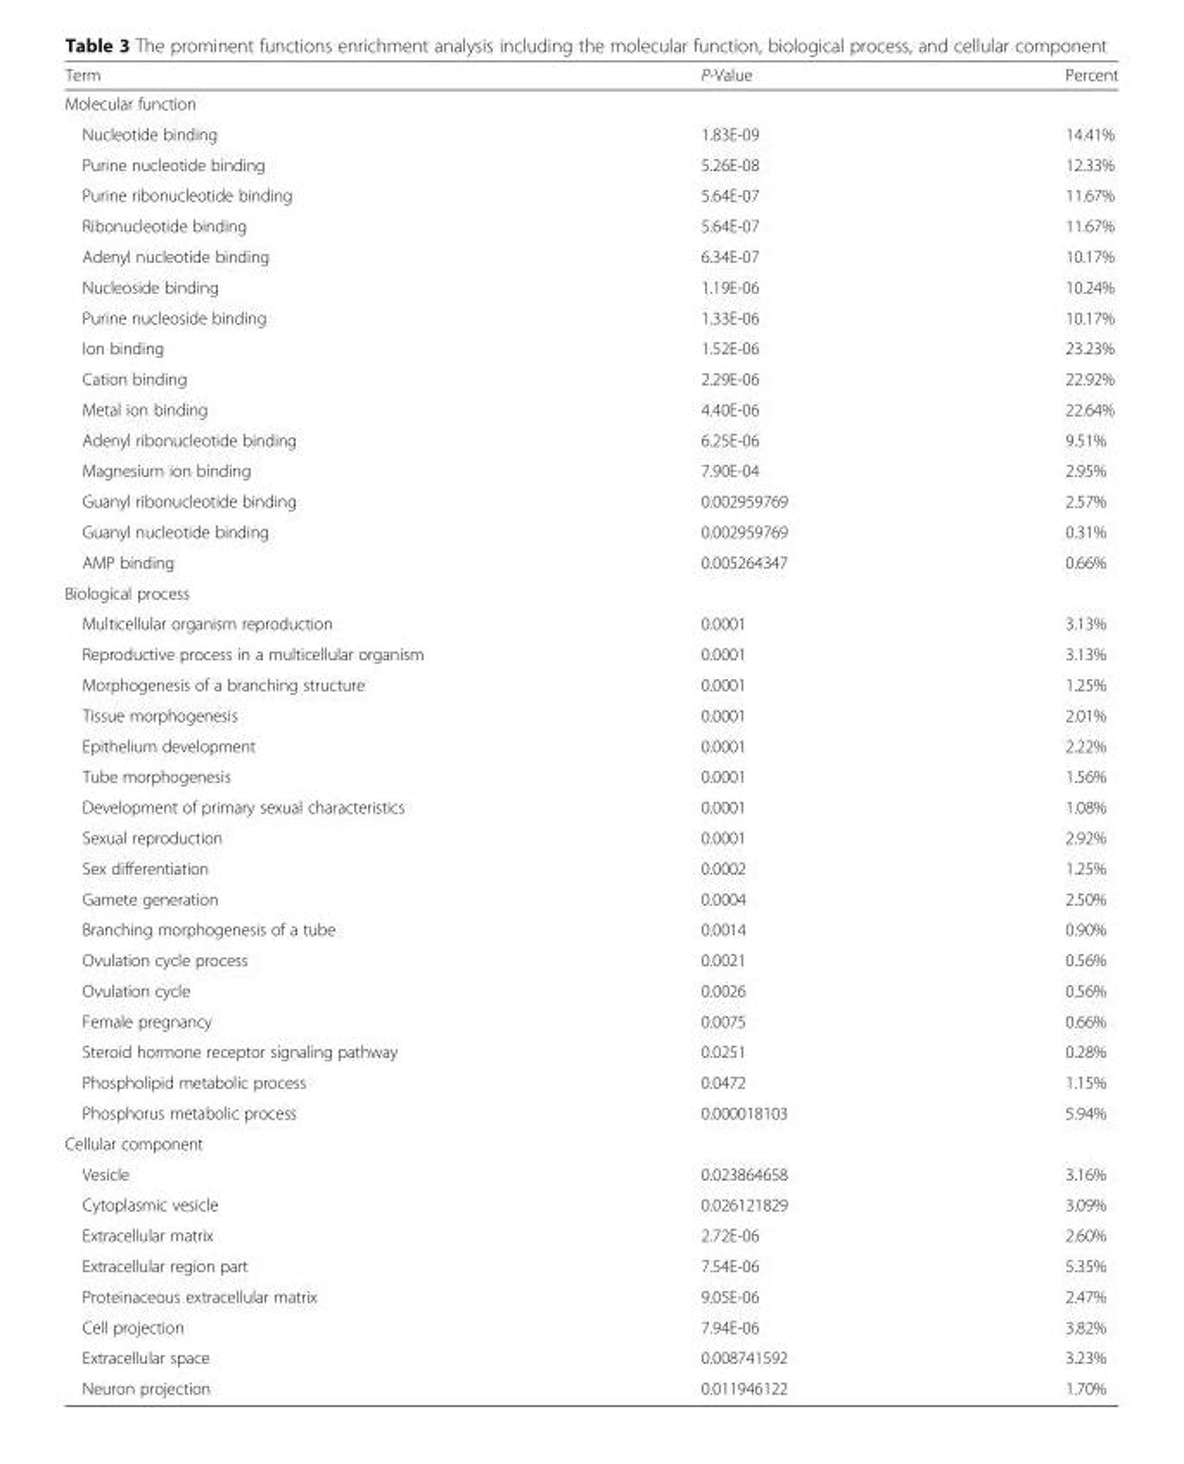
<table><thead><tr><td>Term</td><td>P-Value</td><td>Percent</td></tr></thead><tbody><tr><td colspan="3">Molecular function</td></tr><tr><td>Nucleotide binding</td><td>1.83E-09</td><td>14.41%</td></tr><tr><td>Purine nucleotide binding</td><td>5.26E-08</td><td>12.33%</td></tr><tr><td>Purine ribonucleotide binding</td><td>5.64E-07</td><td>11.67%</td></tr><tr><td>Ribonucleotide binding</td><td>5.64E-07</td><td>11.67%</td></tr><tr><td>Adenyl nucleotide binding</td><td>6.34E-07</td><td>10.17%</td></tr><tr><td>Nucleoside binding</td><td>1.19E-06</td><td>10.24%</td></tr><tr><td>Purine nucleoside binding</td><td>1.33E-06</td><td>10.17%</td></tr><tr><td>Ion binding</td><td>1.52E-06</td><td>23.23%</td></tr><tr><td>Cation binding</td><td>2.29E-06</td><td>22.92%</td></tr><tr><td>Metal ion binding</td><td>4.40E-06</td><td>22.64%</td></tr><tr><td>Adenyl ribonucleotide binding</td><td>6.25E-06</td><td>9.51%</td></tr><tr><td>Magnesium ion binding</td><td>7.90E-04</td><td>2.95%</td></tr><tr><td>Guanyl ribonucleotide binding</td><td>0.002959769</td><td>2.57%</td></tr><tr><td>Guanyl nucleotide binding</td><td>0.002959769</td><td>0.31%</td></tr><tr><td>AMP binding</td><td>0.005264347</td><td>0.66%</td></tr><tr><td colspan="3">Biological process</td></tr><tr><td>Multicellular organism reproduction</td><td>0.0001</td><td>3.13%</td></tr><tr><td>Reproductive process in a multicellular organism</td><td>0.0001</td><td>3.13%</td></tr><tr><td>Morphogenesis of a branching structure</td><td>0.0001</td><td>1.25%</td></tr><tr><td>Tissue morphogenesis</td><td>0.0001</td><td>2.01%</td></tr><tr><td>Epithelium development</td><td>0.0001</td><td>2.22%</td></tr><tr><td>Tube morphogenesis</td><td>0.0001</td><td>1.56%</td></tr><tr><td>Development of primary sexual characteristics</td><td>0.0001</td><td>1.08%</td></tr><tr><td>Sexual reproduction</td><td>0.0001</td><td>2.92%</td></tr><tr><td>Sex differentiation</td><td>0.0002</td><td>1.25%</td></tr><tr><td>Gamete generation</td><td>0.0004</td><td>2.50%</td></tr><tr><td>Branching morphogenesis of a tube</td><td>0.0014</td><td>0.90%</td></tr><tr><td>Ovulation cycle process</td><td>0.0021</td><td>0.56%</td></tr><tr><td>Ovulation cycle</td><td>0.0026</td><td>0.56%</td></tr><tr><td>Female pregnancy</td><td>0.0075</td><td>0.66%</td></tr><tr><td>Steroid hormone receptor signaling pathway</td><td>0.0251</td><td>0.28%</td></tr><tr><td>Phospholipid metabolic process</td><td>0.0472</td><td>1.15%</td></tr><tr><td>Phosphorus metabolic process</td><td>0.000018103</td><td>5.94%</td></tr><tr><td colspan="3">Cellular component</td></tr><tr><td>Vesicle</td><td>0.023864658</td><td>3.16%</td></tr><tr><td>Cytoplasmic vesicle</td><td>0.026121829</td><td>3.09%</td></tr><tr><td>Extracellular matrix</td><td>2.72E-06</td><td>2.60%</td></tr><tr><td>Extracellular region part</td><td>7.54E-06</td><td>5.35%</td></tr><tr><td>Proteinaceous extracellular matrix</td><td>9.05E-06</td><td>2.47%</td></tr><tr><td>Cell projection</td><td>7.94E-06</td><td>3.82%</td></tr><tr><td>Extracellular space</td><td>0.008741592</td><td>3.23%</td></tr><tr><td>Neuron projection</td><td>0.011946122</td><td>1.70%</td></tr></tbody></table>